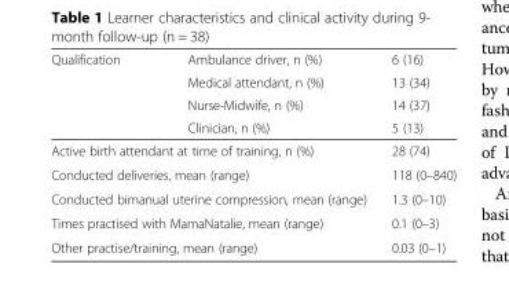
<table><thead><tr><td rowspan="4">Qualification</td><td rowspan="4">Ambulance driver, n (%) Medical attendant, n (%) Nurse-Midwife, n (%) Clinician, n (%)</td><td rowspan="4">6 (16) 13 (34) 14 (37) 5 (13)</td></tr><tr></tr><tr></tr><tr></tr></thead><tbody><tr><td colspan="2">Active birth attendant at time of training, n (%)</td><td>28 (74)</td></tr><tr><td colspan="2">Conducted deliveries, mean (range)</td><td>118 (0–840)</td></tr><tr><td colspan="2">Conducted bimanual uterine compression, mean (range)</td><td>1.3 (0–10)</td></tr><tr><td colspan="2">Times practised with MamaNatalie, mean (range)</td><td>0.1 (0–3)</td></tr><tr><td colspan="2">Other practise/training, mean (range)</td><td>0.03 (0–1)</td></tr></tbody></table>